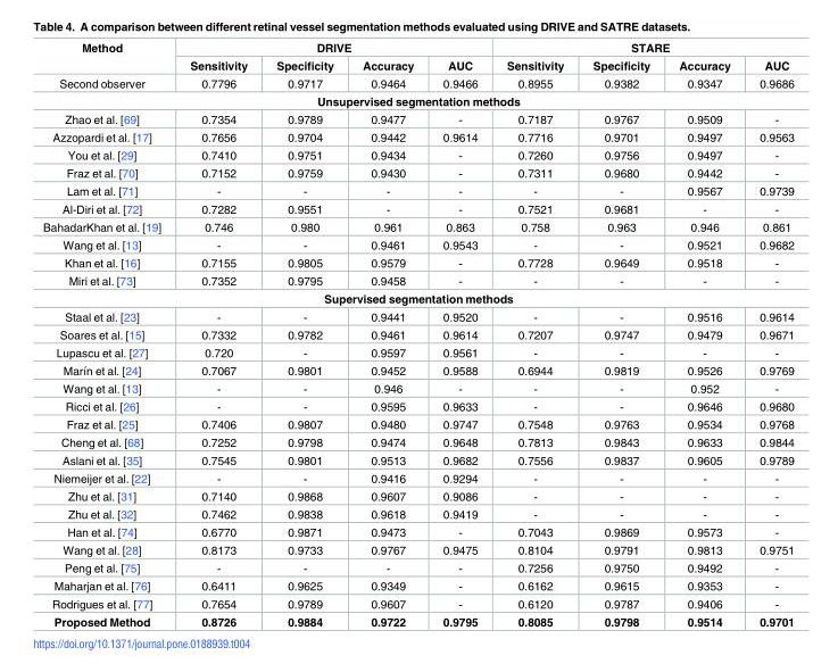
<table><thead><tr><td rowspan="2">Method</td><td colspan="4">DRIVE</td><td colspan="4">STARE</td></tr><tr><td>Sensitivity</td><td>Specificity</td><td>Accuracy</td><td>AUC</td><td>Sensitivity</td><td>Specificity</td><td>Accuracy</td><td>AUC</td></tr></thead><tbody><tr><td>Second observer</td><td>0.7796</td><td>0.9717</td><td>0.9464</td><td>0.9466</td><td>0.8955</td><td>0.9382</td><td>0.9347</td><td>0.9686</td></tr><tr><td colspan="9">Unsupervised segmentation methods</td></tr><tr><td>Zhao et al. [69]</td><td>0.7354</td><td>0.9789</td><td>0.9477</td><td>-</td><td>0.7187</td><td>0.9767</td><td>0.9509</td><td>-</td></tr><tr><td>Azzopardi et al. [17]</td><td>0.7656</td><td>0.9704</td><td>0.9442</td><td>0.9614</td><td>0.7716</td><td>0.9701</td><td>0.9497</td><td>0.9563</td></tr><tr><td>You et al. [29]</td><td>0.7410</td><td>0.9751</td><td>0.9434</td><td>-</td><td>0.7260</td><td>0.9756</td><td>0.9497</td><td>-</td></tr><tr><td>Fraz et al. [70]</td><td>0.7152</td><td>0.9759</td><td>0.9430</td><td>-</td><td>0.7311</td><td>0.9680</td><td>0.9442</td><td>-</td></tr><tr><td>Lam et al. [71]</td><td>-</td><td>-</td><td>-</td><td>-</td><td>-</td><td>-</td><td>0.9567</td><td>0.9739</td></tr><tr><td>Al-Diri et al. [72]</td><td>0.7282</td><td>0.9551</td><td>-</td><td>-</td><td>0.7521</td><td>0.9681</td><td>-</td><td>-</td></tr><tr><td>BahadarKhan et al. [19]</td><td>0.746</td><td>0.980</td><td>0.961</td><td>0.863</td><td>0.758</td><td>0.963</td><td>0.946</td><td>0.861</td></tr><tr><td>Wang et al. [13]</td><td>-</td><td>-</td><td>0.9461</td><td>0.9543</td><td>-</td><td>-</td><td>0.9521</td><td>0.9682</td></tr><tr><td>Khan et al. [16]</td><td>0.7155</td><td>0.9805</td><td>0.9579</td><td>-</td><td>0.7728</td><td>0.9649</td><td>0.9518</td><td>-</td></tr><tr><td>Miri et al. [73]</td><td>0.7352</td><td>0.9795</td><td>0.9458</td><td>-</td><td>-</td><td>-</td><td>-</td><td>-</td></tr><tr><td colspan="9">Supervised segmentation methods</td></tr><tr><td>Staal et al. [23]</td><td>-</td><td>-</td><td>0.9441</td><td>0.9520</td><td>-</td><td>-</td><td>0.9516</td><td>0.9614</td></tr><tr><td>Soares et al. [15]</td><td>0.7332</td><td>0.9782</td><td>0.9461</td><td>0.9614</td><td>0.7207</td><td>0.9747</td><td>0.9479</td><td>0.9671</td></tr><tr><td>Lupascu et al. [27]</td><td>0.720</td><td>-</td><td>0.9597</td><td>0.9561</td><td>-</td><td>-</td><td>-</td><td>-</td></tr><tr><td>Marı´n et al. [24]</td><td>0.7067</td><td>0.9801</td><td>0.9452</td><td>0.9588</td><td>0.6944</td><td>0.9819</td><td>0.9526</td><td>0.9769</td></tr><tr><td>Wang et al. [13]</td><td>-</td><td>-</td><td>0.946</td><td>-</td><td>-</td><td>-</td><td>0.952</td><td>-</td></tr><tr><td>Ricci et al. [26]</td><td>-</td><td>-</td><td>0.9595</td><td>0.9633</td><td>-</td><td>-</td><td>0.9646</td><td>0.9680</td></tr><tr><td>Fraz et al. [25]</td><td>0.7406</td><td>0.9807</td><td>0.9480</td><td>0.9747</td><td>0.7548</td><td>0.9763</td><td>0.9534</td><td>0.9768</td></tr><tr><td>Cheng et al. [68]</td><td>0.7252</td><td>0.9798</td><td>0.9474</td><td>0.9648</td><td>0.7813</td><td>0.9843</td><td>0.9633</td><td>0.9844</td></tr><tr><td>Aslani et al. [35]</td><td>0.7545</td><td>0.9801</td><td>0.9513</td><td>0.9682</td><td>0.7556</td><td>0.9837</td><td>0.9605</td><td>0.9789</td></tr><tr><td>Niemeijer et al. [22]</td><td>-</td><td>-</td><td>0.9416</td><td>0.9294</td><td>-</td><td>-</td><td>-</td><td>-</td></tr><tr><td>Zhu et al. [31]</td><td>0.7140</td><td>0.9868</td><td>0.9607</td><td>0.9086</td><td>-</td><td>-</td><td>-</td><td>-</td></tr><tr><td>Zhu et al. [32]</td><td>0.7462</td><td>0.9838</td><td>0.9618</td><td>0.9419</td><td>-</td><td>-</td><td>-</td><td>-</td></tr><tr><td>Han et al. [74]</td><td>0.6770</td><td>0.9871</td><td>0.9473</td><td>-</td><td>0.7043</td><td>0.9869</td><td>0.9573</td><td>-</td></tr><tr><td>Wang et al. [28]</td><td>0.8173</td><td>0.9733</td><td>0.9767</td><td>0.9475</td><td>0.8104</td><td>0.9791</td><td>0.9813</td><td>0.9751</td></tr><tr><td>Peng et al. [75]</td><td>-</td><td>-</td><td>-</td><td>-</td><td>0.7256</td><td>0.9750</td><td>0.9492</td><td>-</td></tr><tr><td>Maharjan et al. [76]</td><td>0.6411</td><td>0.9625</td><td>0.9349</td><td>-</td><td>0.6162</td><td>0.9615</td><td>0.9353</td><td>-</td></tr><tr><td>Rodrigues et al. [77]</td><td>0.7654</td><td>0.9789</td><td>0.9607</td><td>-</td><td>0.6120</td><td>0.9787</td><td>0.9406</td><td>-</td></tr><tr><td>Proposed Method</td><td>0.8726</td><td>0.9884</td><td>0.9722</td><td>0.9795</td><td>0.8085</td><td>0.9798</td><td>0.9514</td><td>0.9701</td></tr></tbody></table>